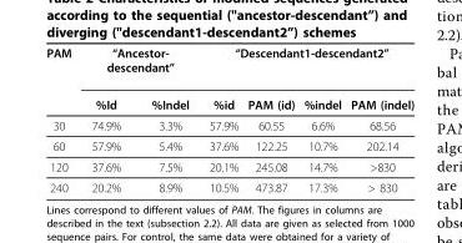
<table><thead><tr><td rowspan="2">PAM</td><td colspan="2">“Ancestor- descendant”</td><td colspan="4">“Descendant1-descendant2”</td></tr><tr><td>%Id</td><td>%Indel</td><td>%id</td><td>PAM (id)</td><td>%indel</td><td>PAM (indel)</td></tr></thead><tbody><tr><td>30</td><td>74.9%</td><td>3.3%</td><td>57.9%</td><td>60.55</td><td>6.6%</td><td>68.56</td></tr><tr><td>60</td><td>57.9%</td><td>5.4%</td><td>37.6%</td><td>122.25</td><td>10.7%</td><td>202.14</td></tr><tr><td>120</td><td>37.6%</td><td>7.5%</td><td>20.1%</td><td>245.08</td><td>14.7%</td><td>&gt;830</td></tr><tr><td>240</td><td>20.2%</td><td>8.9%</td><td>10.5%</td><td>473.87</td><td>17.3%</td><td>&gt; 830</td></tr></tbody></table>